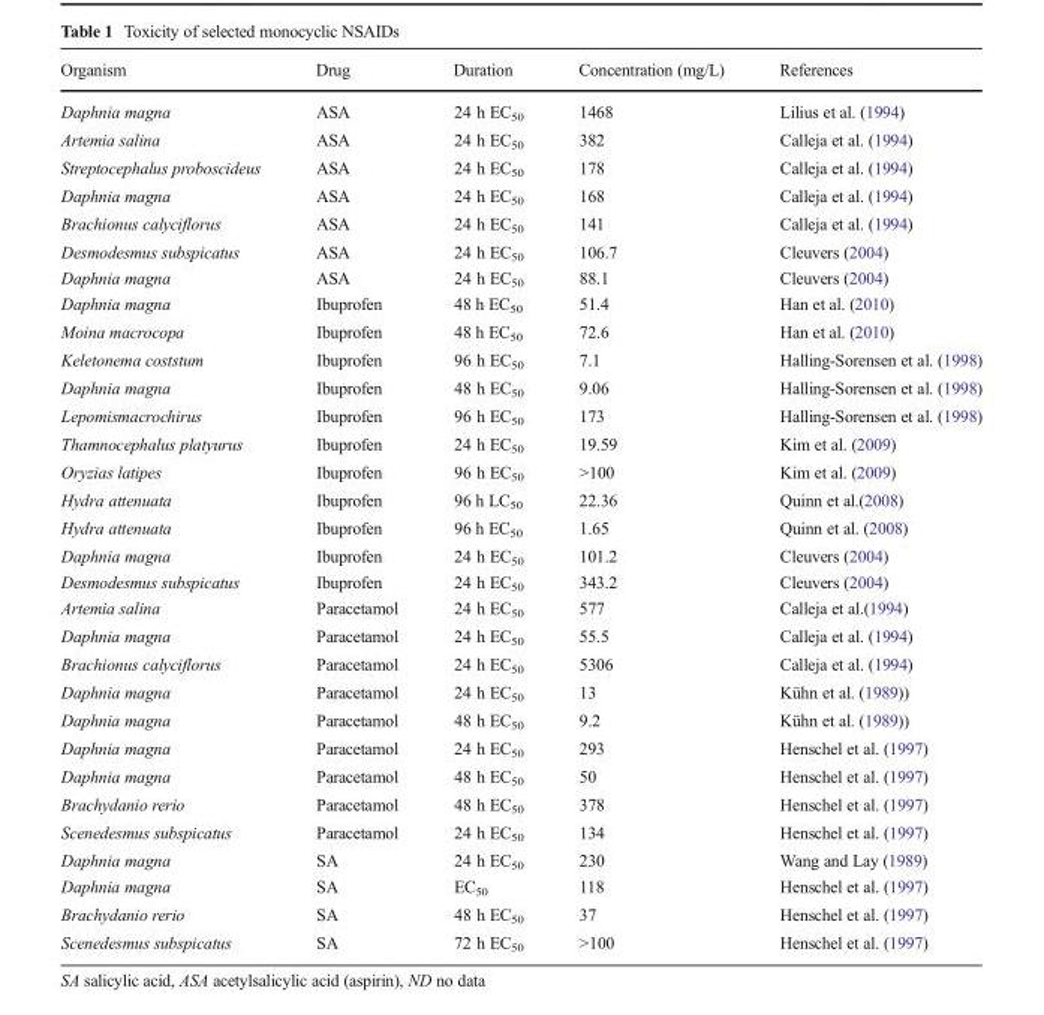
<table><thead><tr><td>Organism</td><td>Drug</td><td>Duration</td><td>Concentration (mg/L)</td><td>References</td></tr></thead><tbody><tr><td>Daphnia magna</td><td>ASA</td><td>24 h EC<sub>50</sub></td><td>1468</td><td>Lilius et al. (1994)</td></tr><tr><td>Artemia salina</td><td>ASA</td><td>24 h EC<sub>50</sub></td><td>382</td><td>Calleja et al. (1994)</td></tr><tr><td>Streptocephalus proboscideus</td><td>ASA</td><td>24 h EC<sub>50</sub></td><td>178</td><td>Calleja et al. (1994)</td></tr><tr><td>Daphnia magna</td><td>ASA</td><td>24 h EC<sub>50</sub></td><td>168</td><td>Calleja et al. (1994)</td></tr><tr><td>Brachionus calyciflorus</td><td>ASA</td><td>24 h EC<sub>50</sub></td><td>141</td><td>Calleja et al. (1994)</td></tr><tr><td>Desmodesmus subspicatus</td><td>ASA</td><td>24 h EC<sub>50</sub></td><td>106.7</td><td>Cleuvers (2004)</td></tr><tr><td>Daphnia magna</td><td>ASA</td><td>24 h EC<sub>50</sub></td><td>88.1</td><td>Cleuvers (2004)</td></tr><tr><td>Daphnia magna</td><td>Ibuprofen</td><td>48 h EC<sub>50</sub></td><td>51.4</td><td>Han et al. (2010)</td></tr><tr><td>Moina macrocopa</td><td>Ibuprofen</td><td>48 h EC<sub>50</sub></td><td>72.6</td><td>Han et al. (2010)</td></tr><tr><td>Keletonema coststum</td><td>Ibuprofen</td><td>96 h EC<sub>50</sub></td><td>7.1</td><td>Halling-Sorensen et al. (1998)</td></tr><tr><td>Daphnia magna</td><td>Ibuprofen</td><td>48 h EC<sub>50</sub></td><td>9.06</td><td>Halling-Sorensen et al. (1998)</td></tr><tr><td>Lepomismacrochirus</td><td>Ibuprofen</td><td>96 h EC<sub>50</sub></td><td>173</td><td>Halling-Sorensen et al. (1998)</td></tr><tr><td>Thamnocephalus platyurus</td><td>Ibuprofen</td><td>24 h EC<sub>50</sub></td><td>19.59</td><td>Kim et al. (2009)</td></tr><tr><td>Oryzias latipes</td><td>Ibuprofen</td><td>96 h EC<sub>50</sub></td><td>&gt;100</td><td>Kim et al. (2009)</td></tr><tr><td>Hydra attenuata</td><td>Ibuprofen</td><td>96 h LC<sub>50</sub></td><td>22.36</td><td>Quinn et al.(2008)</td></tr><tr><td>Hydra attenuata</td><td>Ibuprofen</td><td>96 h EC<sub>50</sub></td><td>1.65</td><td>Quinn et al. (2008)</td></tr><tr><td>Daphnia magna</td><td>Ibuprofen</td><td>24 h EC<sub>50</sub></td><td>101.2</td><td>Cleuvers (2004)</td></tr><tr><td>Desmodesmus subspicatus</td><td>Ibuprofen</td><td>24 h EC<sub>50</sub></td><td>343.2</td><td>Cleuvers (2004)</td></tr><tr><td>Artemia salina</td><td>Paracetamol</td><td>24 h EC<sub>50</sub></td><td>577</td><td>Calleja et al.(1994)</td></tr><tr><td>Daphnia magna</td><td>Paracetamol</td><td>24 h EC<sub>50</sub></td><td>55.5</td><td>Calleja et al. (1994)</td></tr><tr><td>Brachionus calyciflorus</td><td>Paracetamol</td><td>24 h EC<sub>50</sub></td><td>5306</td><td>Calleja et al. (1994)</td></tr><tr><td>Daphnia magna</td><td>Paracetamol</td><td>24 h EC<sub>50</sub></td><td>13</td><td>Kühn et al. (1989))</td></tr><tr><td>Daphnia magna</td><td>Paracetamol</td><td>48 h EC<sub>50</sub></td><td>9.2</td><td>Kühn et al. (1989))</td></tr><tr><td>Daphnia magna</td><td>Paracetamol</td><td>24 h EC<sub>50</sub></td><td>293</td><td>Henschel et al. (1997)</td></tr><tr><td>Daphnia magna</td><td>Paracetamol</td><td>48 h EC<sub>50</sub></td><td>50</td><td>Henschel et al. (1997)</td></tr><tr><td>Brachydanio rerio</td><td>Paracetamol</td><td>48 h EC<sub>50</sub></td><td>378</td><td>Henschel et al. (1997)</td></tr><tr><td>Scenedesmus subspicatus</td><td>Paracetamol</td><td>24 h EC<sub>50</sub></td><td>134</td><td>Henschel et al. (1997)</td></tr><tr><td>Daphnia magna</td><td>SA</td><td>24 h EC<sub>50</sub></td><td>230</td><td>Wang and Lay (1989)</td></tr><tr><td>Daphnia magna</td><td>SA</td><td>EC<sub>50</sub></td><td>118</td><td>Henschel et al. (1997)</td></tr><tr><td>Brachydanio rerio</td><td>SA</td><td>48 h EC<sub>50</sub></td><td>37</td><td>Henschel et al. (1997)</td></tr><tr><td>Scenedesmus subspicatus</td><td>SA</td><td>72 h EC<sub>50</sub></td><td>&gt;100</td><td>Henschel et al. (1997)</td></tr></tbody></table>